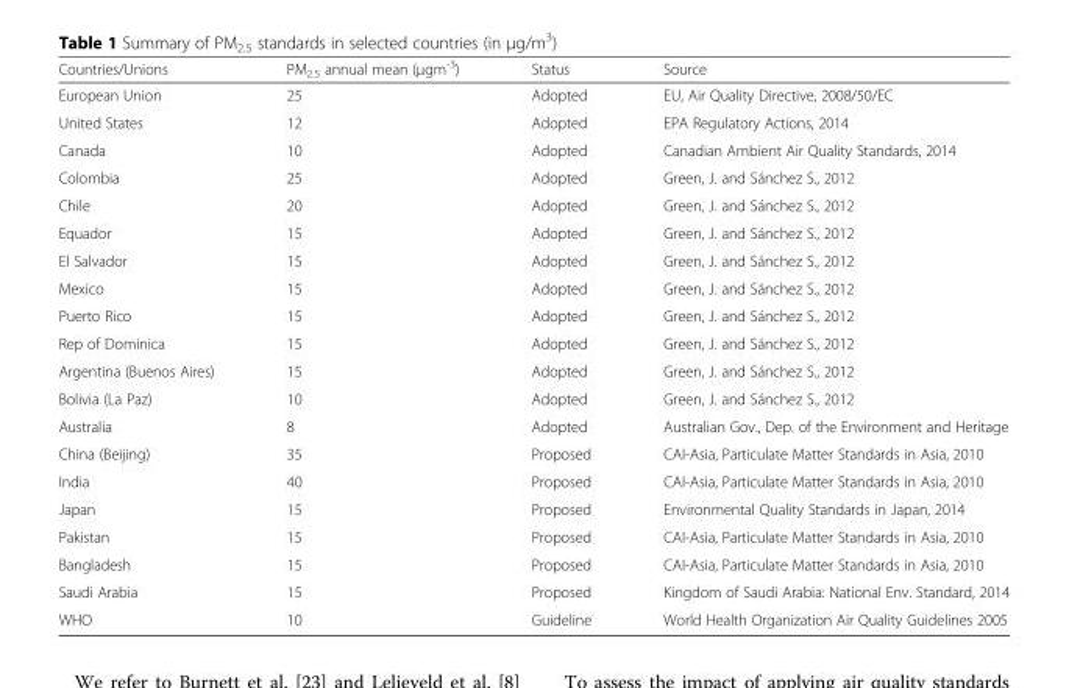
<table><thead><tr><td>Countries/Unions</td><td>PM<sub>2.5</sub> annual mean (μgm<sup>-3</sup>)</td><td>Status</td><td>Source</td></tr></thead><tbody><tr><td>European Union</td><td>25</td><td>Adopted</td><td>EU, Air Quality Directive, 2008/50/EC</td></tr><tr><td>United States</td><td>12</td><td>Adopted</td><td>EPA Regulatory Actions, 2014</td></tr><tr><td>Canada</td><td>10</td><td>Adopted</td><td>Canadian Ambient Air Quality Standards, 2014</td></tr><tr><td>Colombia</td><td>25</td><td>Adopted</td><td>Green, J. and Sánchez S., 2012</td></tr><tr><td>Chile</td><td>20</td><td>Adopted</td><td>Green, J. and Sánchez S., 2012</td></tr><tr><td>Equador</td><td>15</td><td>Adopted</td><td>Green, J. and Sánchez S., 2012</td></tr><tr><td>El Salvador</td><td>15</td><td>Adopted</td><td>Green, J. and Sánchez S., 2012</td></tr><tr><td>Mexico</td><td>15</td><td>Adopted</td><td>Green, J. and Sánchez S., 2012</td></tr><tr><td>Puerto Rico</td><td>15</td><td>Adopted</td><td>Green, J. and Sánchez S., 2012</td></tr><tr><td>Rep of Dominica</td><td>15</td><td>Adopted</td><td>Green, J. and Sánchez S., 2012</td></tr><tr><td>Argentina (Buenos Aires)</td><td>15</td><td>Adopted</td><td>Green, J. and Sánchez S., 2012</td></tr><tr><td>Bolivia (La Paz)</td><td>10</td><td>Adopted</td><td>Green, J. and Sánchez S., 2012</td></tr><tr><td>Australia</td><td>8</td><td>Adopted</td><td>Australian Gov., Dep. of the Environment and Heritage</td></tr><tr><td>China (Beijing)</td><td>35</td><td>Proposed</td><td>CAI-Asia, Particulate Matter Standards in Asia, 2010</td></tr><tr><td>India</td><td>40</td><td>Proposed</td><td>CAI-Asia, Particulate Matter Standards in Asia, 2010</td></tr><tr><td>Japan</td><td>15</td><td>Proposed</td><td>Environmental Quality Standards in Japan, 2014</td></tr><tr><td>Pakistan</td><td>15</td><td>Proposed</td><td>CAI-Asia, Particulate Matter Standards in Asia, 2010</td></tr><tr><td>Bangladesh</td><td>15</td><td>Proposed</td><td>CAI-Asia, Particulate Matter Standards in Asia, 2010</td></tr><tr><td>Saudi Arabia</td><td>15</td><td>Proposed</td><td>Kingdom of Saudi Arabia: National Env. Standard, 2014</td></tr><tr><td>WHO</td><td>10</td><td>Guideline</td><td>World Health Organization Air Quality Guidelines 2005</td></tr></tbody></table>